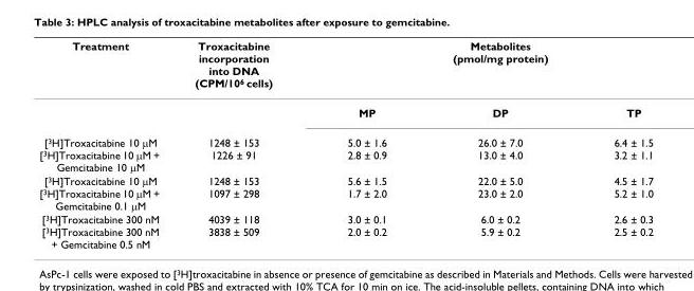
<table><thead><tr><td rowspan="2">Treatment</td><td rowspan="2">Troxacitabine incorporation into DNA (CPM/10<sup>6</sup> cells)</td><td colspan="3">Metabolites (pmol/mg protein)</td></tr><tr><td>MP</td><td>DP</td><td>TP</td></tr></thead><tbody><tr><td>[<sup>3</sup>H]Troxacitabine 10 μM [<sup>3</sup>H]Troxacitabine 10 μM + Gemcitabine 10 μM</td><td>1248 ± 153 1226 ± 91</td><td>5.0 ± 1.6 2.8 ± 0.9</td><td>26.0 ± 7.0 13.0 ± 4.0</td><td>6.4 ± 1.5 3.2 ± 1.1</td></tr><tr><td>[<sup>3</sup>H]Troxacitabine 10 μM [<sup>3</sup>H]Troxacitabine 10 μM + Gemcitabine 0.1 μM</td><td>1248 ± 153 1097 ± 298</td><td>5.6 ± 1.5 1.7 ± 2.0</td><td>22.0 ± 5.0 23.0 ± 2.0</td><td>4.5 ± 1.7 5.2 ± 1.0</td></tr><tr><td>[<sup>3</sup>H]Troxacitabine 300 nM [<sup>3</sup>H]Troxacitabine 300 nM + Gemcitabine 0.5 nM</td><td>4039 ± 118 3838 ± 509</td><td>3.0 ± 0.1 2.0 ± 0.2</td><td>6.0 ± 0.2 5.9 ± 0.2</td><td>2.6 ± 0.3 2.5 ± 0.2</td></tr></tbody></table>